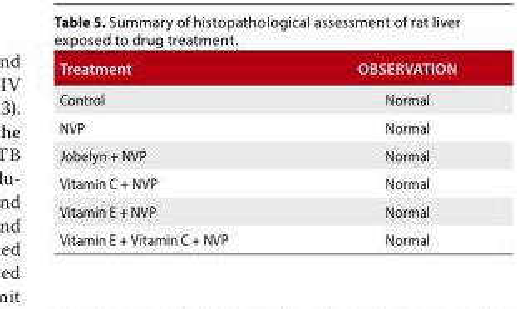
<table><thead><tr><td>Treatment</td><td>OBSERVATION</td></tr></thead><tbody><tr><td>Control</td><td>Normal</td></tr><tr><td>NVP</td><td>Normal</td></tr><tr><td>Jobelyn + NVP</td><td>Normal</td></tr><tr><td>Vitamin C + NVP</td><td>Normal</td></tr><tr><td>Vitamin E + NVP</td><td>Normal</td></tr><tr><td>Vitamin E + Vitamin C + NVP</td><td>Normal</td></tr></tbody></table>